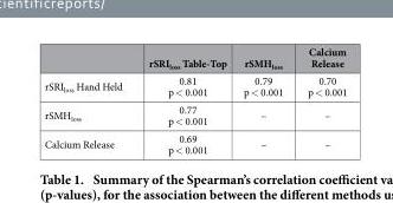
<table><thead><tr><td></td><td>rSRI<sub>loss</sub> Table-Top</td><td>rSMH<sub>loss</sub></td><td>Calcium Release</td></tr></thead><tbody><tr><td>rSRI<sub>loss</sub> Hand Held</td><td>0.81 p &lt; 0.001</td><td>0.79 p &lt; 0.001</td><td>0.70 p &lt; 0.001</td></tr><tr><td>rSMH<sub>loss</sub></td><td>0.77 p &lt; 0.001</td><td>–</td><td>–</td></tr><tr><td>Calcium Release</td><td>0.69 p &lt; 0.001</td><td>–</td><td>–</td></tr></tbody></table>